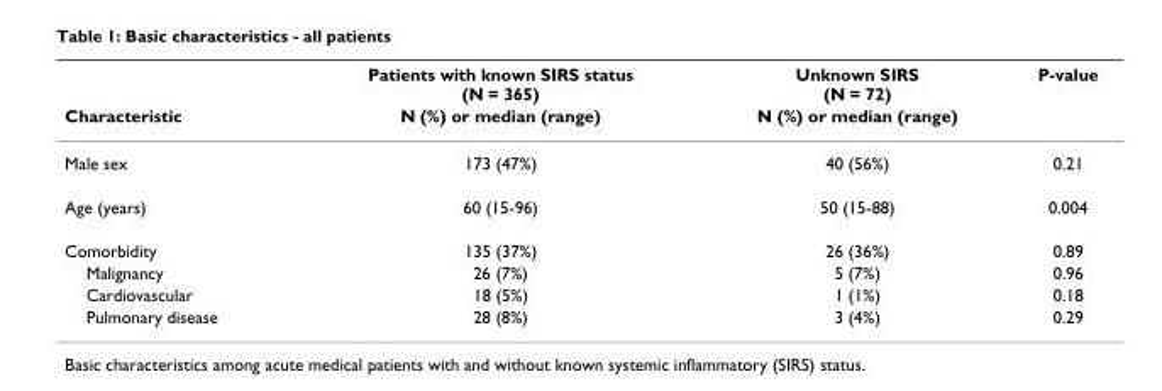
<table><thead><tr><td rowspan="2">Characteristic</td><td rowspan="2">Patients with known SIRS status (N = 365) N (%) or median (range)</td><td rowspan="2">Unknown SIRS (N = 72) N (%) or median (range)</td><td rowspan="2">P-value</td></tr><tr></tr></thead><tbody><tr><td>Male sex</td><td>173 (47%)</td><td>40 (56%)</td><td>0.21</td></tr><tr><td>Age (years)</td><td>60 (15-96)</td><td>50 (15-88)</td><td>0.004</td></tr><tr><td>Comorbidity</td><td>135 (37%)</td><td>26 (36%)</td><td>0.89</td></tr><tr><td>Malignancy</td><td>26 (7%)</td><td>5 (7%)</td><td>0.96</td></tr><tr><td>Cardiovascular</td><td>18 (5%)</td><td>1 (1%)</td><td>0.18</td></tr><tr><td>Pulmonary disease</td><td>28 (8%)</td><td>3 (4%)</td><td>0.29</td></tr></tbody></table>